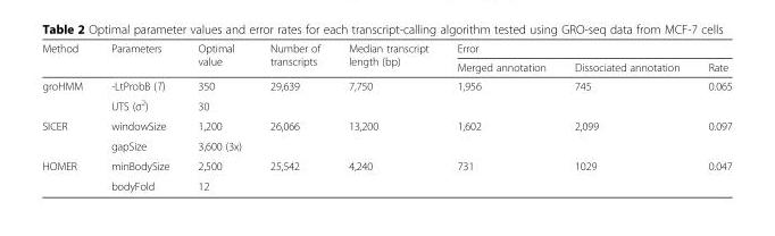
<table><thead><tr><td rowspan="2">Method</td><td rowspan="2">Parameters</td><td rowspan="2">Optimal value</td><td rowspan="2">Number of transcripts</td><td rowspan="2">Median transcript length (bp)</td><td colspan="3">Error</td></tr><tr><td>Merged annotation</td><td>Dissociated annotation</td><td>Rate</td></tr></thead><tbody><tr><td rowspan="2">groHMM</td><td>-LtProbB (T)</td><td>350</td><td rowspan="2">29,639</td><td rowspan="2">7,750</td><td rowspan="2">1,956</td><td rowspan="2">745</td><td rowspan="2">0.065</td></tr><tr><td>UTS (σ<sup>2</sup>)</td><td>30</td></tr><tr><td rowspan="2">SICER</td><td>windowSize</td><td>1,200</td><td rowspan="2">26,066</td><td rowspan="2">13,200</td><td rowspan="2">1,602</td><td rowspan="2">2,099</td><td rowspan="2">0.097</td></tr><tr><td>gapSize</td><td>3,600 (3x)</td></tr><tr><td rowspan="2">HOMER</td><td>minBodySize</td><td>2,500</td><td rowspan="2">25,542</td><td rowspan="2">4,240</td><td rowspan="2">731</td><td rowspan="2">1029</td><td rowspan="2">0.047</td></tr><tr><td>bodyFold</td><td>12</td></tr></tbody></table>